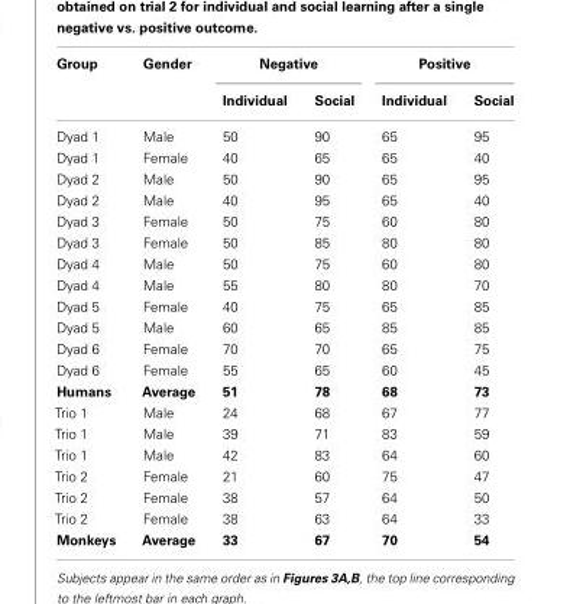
<table><thead><tr><td rowspan="2">Group</td><td rowspan="2">Gender</td><td colspan="2">Negative</td><td colspan="2">Positive</td></tr><tr><td>Individual</td><td>Social</td><td>Individual</td><td>Social</td></tr></thead><tbody><tr><td>Dyad 1</td><td>Male</td><td>50</td><td>90</td><td>65</td><td>95</td></tr><tr><td>Dyad 1</td><td>Female</td><td>40</td><td>65</td><td>65</td><td>40</td></tr><tr><td>Dyad 2</td><td>Male</td><td>50</td><td>90</td><td>65</td><td>95</td></tr><tr><td>Dyad 2</td><td>Male</td><td>40</td><td>95</td><td>65</td><td>40</td></tr><tr><td>Dyad 3</td><td>Female</td><td>50</td><td>75</td><td>60</td><td>80</td></tr><tr><td>Dyad 3</td><td>Female</td><td>50</td><td>85</td><td>80</td><td>80</td></tr><tr><td>Dyad 4</td><td>Male</td><td>50</td><td>75</td><td>60</td><td>80</td></tr><tr><td>Dyad 4</td><td>Male</td><td>55</td><td>80</td><td>80</td><td>70</td></tr><tr><td>Dyad 5</td><td>Female</td><td>40</td><td>75</td><td>65</td><td>85</td></tr><tr><td>Dyad 5</td><td>Male</td><td>60</td><td>65</td><td>85</td><td>85</td></tr><tr><td>Dyad 6</td><td>Female</td><td>70</td><td>70</td><td>65</td><td>75</td></tr><tr><td>Dyad 6</td><td>Female</td><td>55</td><td>65</td><td>60</td><td>45</td></tr><tr><td>Humans</td><td>Average</td><td>51</td><td>78</td><td>68</td><td>73</td></tr><tr><td>Trio 1</td><td>Male</td><td>24</td><td>68</td><td>67</td><td>77</td></tr><tr><td>Trio 1</td><td>Male</td><td>39</td><td>71</td><td>83</td><td>59</td></tr><tr><td>Trio 1</td><td>Male</td><td>42</td><td>83</td><td>64</td><td>60</td></tr><tr><td>Trio 2</td><td>Female</td><td>21</td><td>60</td><td>75</td><td>47</td></tr><tr><td>Trio 2</td><td>Female</td><td>38</td><td>57</td><td>64</td><td>50</td></tr><tr><td>Trio 2</td><td>Female</td><td>38</td><td>63</td><td>64</td><td>33</td></tr><tr><td>Monkeys</td><td>Average</td><td>33</td><td>67</td><td>70</td><td>54</td></tr></tbody></table>